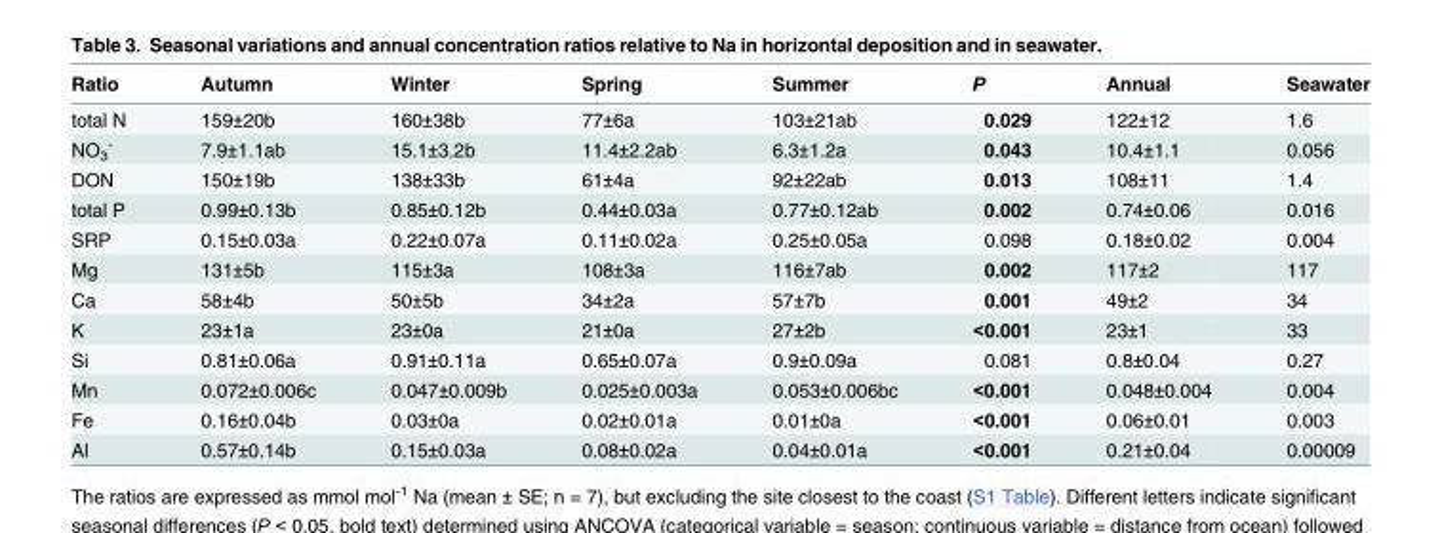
<table><thead><tr><td>Ratio</td><td>Autumn</td><td>Winter</td><td>Spring</td><td>Summer</td><td>P</td><td>Annual</td><td>Seawater</td></tr></thead><tbody><tr><td>total N</td><td>159±20b</td><td>160±38b</td><td>77±6a</td><td>103±21ab</td><td>0.029</td><td>122±12</td><td>1.6</td></tr><tr><td>NO<sub>3</sub> <sup>-</sup></td><td>7.9±1.1ab</td><td>15.1±3.2b</td><td>11.4±2.2ab</td><td>6.3±1.2a</td><td>0.043</td><td>10.4±1.1</td><td>0.056</td></tr><tr><td>DON</td><td>150±19b</td><td>138±33b</td><td>61±4a</td><td>92±22ab</td><td>0.013</td><td>108±11</td><td>1.4</td></tr><tr><td>total P</td><td>0.99±0.13b</td><td>0.85±0.12b</td><td>0.44±0.03a</td><td>0.77±0.12ab</td><td>0.002</td><td>0.74±0.06</td><td>0.016</td></tr><tr><td>SRP</td><td>0.15±0.03a</td><td>0.22±0.07a</td><td>0.11±0.02a</td><td>0.25±0.05a</td><td>0.098</td><td>0.18±0.02</td><td>0.004</td></tr><tr><td>Mg</td><td>131±5b</td><td>115±3a</td><td>108±3a</td><td>116±7ab</td><td>0.002</td><td>117±2</td><td>117</td></tr><tr><td>Ca</td><td>58±4b</td><td>50±5b</td><td>34±2a</td><td>57±7b</td><td>0.001</td><td>49±2</td><td>34</td></tr><tr><td>K</td><td>23±1a</td><td>23±0a</td><td>21±0a</td><td>27±2b</td><td>&lt;0.001</td><td>23±1</td><td>33</td></tr><tr><td>Si</td><td>0.81±0.06a</td><td>0.91±0.11a</td><td>0.65±0.07a</td><td>0.9±0.09a</td><td>0.081</td><td>0.8±0.04</td><td>0.27</td></tr><tr><td>Mn</td><td>0.072±0.006c</td><td>0.047±0.009b</td><td>0.025±0.003a</td><td>0.053±0.006bc</td><td>&lt;0.001</td><td>0.048±0.004</td><td>0.004</td></tr><tr><td>Fe</td><td>0.16±0.04b</td><td>0.03±0a</td><td>0.02±0.01a</td><td>0.01±0a</td><td>&lt;0.001</td><td>0.06±0.01</td><td>0.003</td></tr><tr><td>Al</td><td>0.57±0.14b</td><td>0.15±0.03a</td><td>0.08±0.02a</td><td>0.04±0.01a</td><td>&lt;0.001</td><td>0.21±0.04</td><td>0.00009</td></tr></tbody></table>